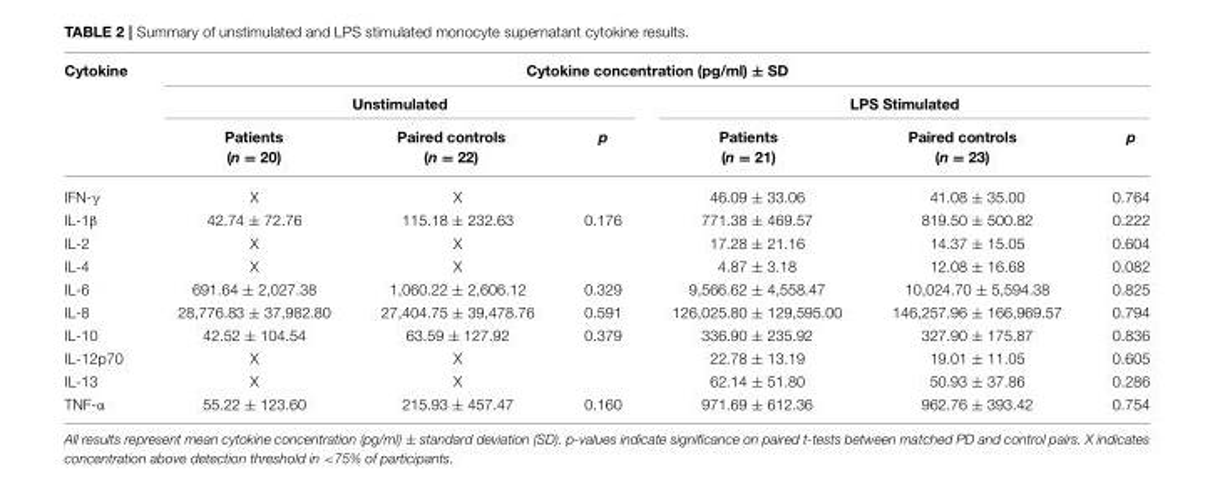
<table><thead><tr><td rowspan="3">Cytokine</td><td colspan="6">Cytokine concentration (pg/ml) ± SD</td></tr><tr><td colspan="3">Unstimulated</td><td colspan="3">LPS Stimulated</td></tr><tr><td>Patients (n = 20)</td><td>Paired controls (n = 22)</td><td>p</td><td>Patients (n = 21)</td><td>Paired controls (n = 23)</td><td>p</td></tr></thead><tbody><tr><td>IFN-γ</td><td>X</td><td>X</td><td></td><td>46.09 ± 33.06</td><td>41.08 ± 35.00</td><td>0.764</td></tr><tr><td>IL-1β</td><td>42.74 ± 72.76</td><td>115.18 ± 232.63</td><td>0.176</td><td>771.38 ± 469.57</td><td>819.50 ± 500.82</td><td>0.222</td></tr><tr><td>IL-2</td><td>X</td><td>X</td><td></td><td>17.28 ± 21.16</td><td>14.37 ± 15.05</td><td>0.604</td></tr><tr><td>IL-4</td><td>X</td><td>X</td><td></td><td>4.87 ± 3.18</td><td>12.08 ± 16.68</td><td>0.082</td></tr><tr><td>IL-6</td><td>691.64 ± 2,027.38</td><td>1,060.22 ± 2,606.12</td><td>0.329</td><td>9,566.62 ± 4,558.47</td><td>10,024.70 ± 5,594.38</td><td>0.825</td></tr><tr><td>IL-8</td><td>28,776.83 ± 37,982.80</td><td>27,404.75 ± 39,478.76</td><td>0.591</td><td>126,025.80 ± 129,595.00</td><td>146,257.96 ± 166,969.57</td><td>0.794</td></tr><tr><td>IL-10</td><td>42.52 ± 104.54</td><td>63.59 ± 127.92</td><td>0.379</td><td>336.90 ± 235.92</td><td>327.90 ± 175.87</td><td>0.836</td></tr><tr><td>IL-12p70</td><td>X</td><td>X</td><td></td><td>22.78 ± 13.19</td><td>19.01 ± 11.05</td><td>0.605</td></tr><tr><td>IL-13</td><td>X</td><td>X</td><td></td><td>62.14 ± 51.80</td><td>50.93 ± 37.86</td><td>0.286</td></tr><tr><td>TNF-α</td><td>55.22 ± 123.60</td><td>215.93 ± 457.47</td><td>0.160</td><td>971.69 ± 612.36</td><td>962.76 ± 393.42</td><td>0.754</td></tr></tbody></table>